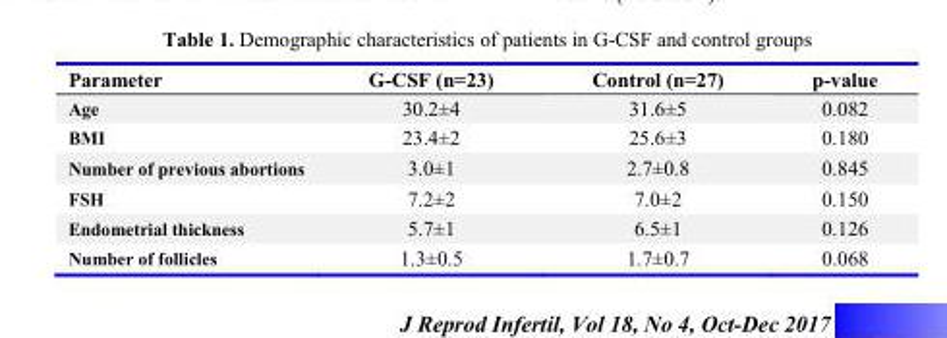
<table><thead><tr><td>Parameter</td><td>G-CSF (n=23)</td><td>Control (n=27)</td><td>p-value</td></tr></thead><tbody><tr><td>Age</td><td>30.2±4</td><td>31.6±5</td><td>0.082</td></tr><tr><td>BMI</td><td>23.4±2</td><td>25.6±3</td><td>0.180</td></tr><tr><td>Number of previous abortions</td><td>3.0±1</td><td>2.7±0.8</td><td>0.845</td></tr><tr><td>FSH</td><td>7.2±2</td><td>7.0±2</td><td>0.150</td></tr><tr><td>Endometrial thickness</td><td>5.7±1</td><td>6.5±1</td><td>0.126</td></tr><tr><td>Number of follicles</td><td>1.3±0.5</td><td>1.7±0.7</td><td>0.068</td></tr></tbody></table>